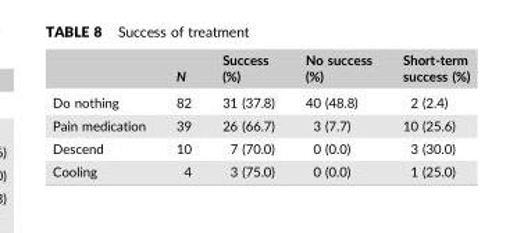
<table><thead><tr><td></td><td>N</td><td>Success (%)</td><td>No success (%)</td><td>Short‐term success (%)</td></tr></thead><tbody><tr><td>Do nothing</td><td>82</td><td>31 (37.8)</td><td>40 (48.8)</td><td>2 (2.4)</td></tr><tr><td>Pain medication</td><td>39</td><td>26 (66.7)</td><td>3 (7.7)</td><td>10 (25.6)</td></tr><tr><td>Descend</td><td>10</td><td>7 (70.0)</td><td>0 (0.0)</td><td>3 (30.0)</td></tr><tr><td>Cooling</td><td>4</td><td>3 (75.0)</td><td>0 (0.0)</td><td>1 (25.0)</td></tr></tbody></table>